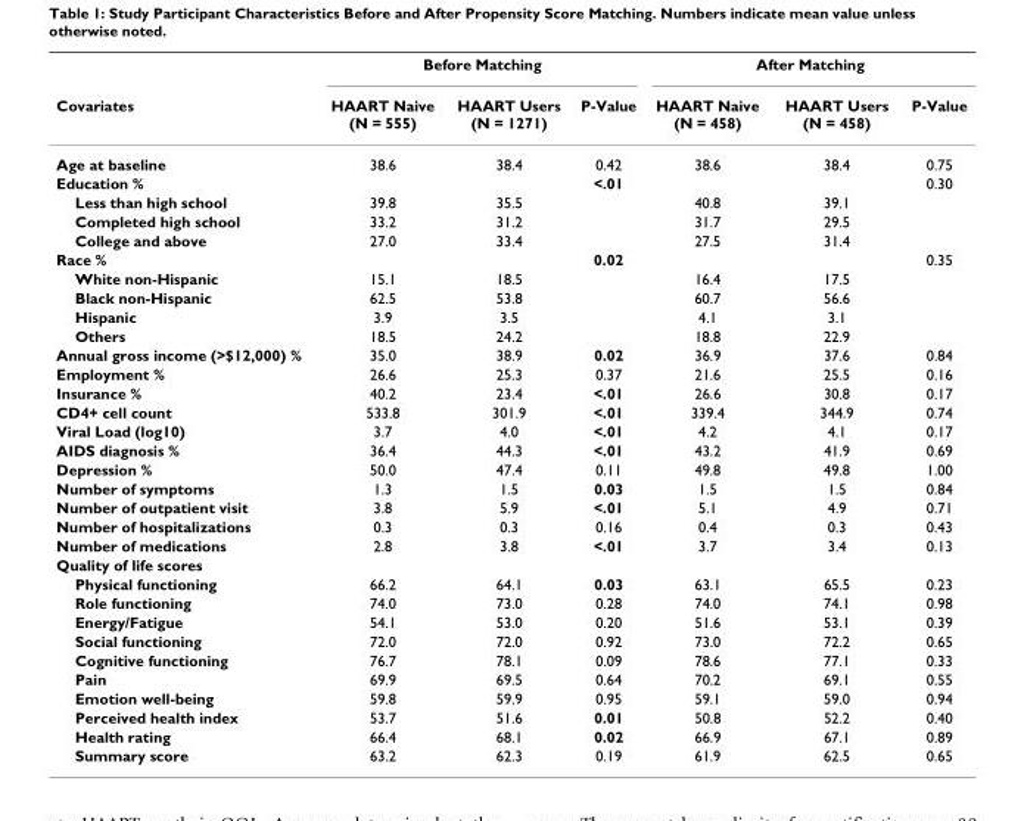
<table><thead><tr><td rowspan="2">Covariates</td><td colspan="3">Before Matching</td><td colspan="3">After Matching</td></tr><tr><td>HAART Naive (N = 555)</td><td>HAART Users (N = 1271)</td><td>P-Value</td><td>HAART Naive (N = 458)</td><td>HAART Users (N = 458)</td><td>P-Value</td></tr></thead><tbody><tr><td>Age at baseline</td><td>38.6</td><td>38.4</td><td>0.42</td><td>38.6</td><td>38.4</td><td>0.75</td></tr><tr><td>Education %</td><td></td><td></td><td>&lt;.01</td><td></td><td></td><td>0.30</td></tr><tr><td>Less than high school</td><td>39.8</td><td>35.5</td><td></td><td>40.8</td><td>39.1</td><td></td></tr><tr><td>Completed high school</td><td>33.2</td><td>31.2</td><td></td><td>31.7</td><td>29.5</td><td></td></tr><tr><td>College and above</td><td>27.0</td><td>33.4</td><td></td><td>27.5</td><td>31.4</td><td></td></tr><tr><td>Race %</td><td></td><td></td><td>0.02</td><td></td><td></td><td>0.35</td></tr><tr><td>White non-Hispanic</td><td>15.1</td><td>18.5</td><td></td><td>16.4</td><td>17.5</td><td></td></tr><tr><td>Black non-Hispanic</td><td>62.5</td><td>53.8</td><td></td><td>60.7</td><td>56.6</td><td></td></tr><tr><td>Hispanic</td><td>3.9</td><td>3.5</td><td></td><td>4.1</td><td>3.1</td><td></td></tr><tr><td>Others</td><td>18.5</td><td>24.2</td><td></td><td>18.8</td><td>22.9</td><td></td></tr><tr><td>Annual gross income (&gt;$12,000) %</td><td>35.0</td><td>38.9</td><td>0.02</td><td>36.9</td><td>37.6</td><td>0.84</td></tr><tr><td>Employment %</td><td>26.6</td><td>25.3</td><td>0.37</td><td>21.6</td><td>25.5</td><td>0.16</td></tr><tr><td>Insurance %</td><td>40.2</td><td>23.4</td><td>&lt;.01</td><td>26.6</td><td>30.8</td><td>0.17</td></tr><tr><td>CD4+ cell count</td><td>533.8</td><td>301.9</td><td>&lt;.01</td><td>339.4</td><td>344.9</td><td>0.74</td></tr><tr><td>Viral Load (log10)</td><td>3.7</td><td>4.0</td><td>&lt;.01</td><td>4.2</td><td>4.1</td><td>0.17</td></tr><tr><td>AIDS diagnosis %</td><td>36.4</td><td>44.3</td><td>&lt;.01</td><td>43.2</td><td>41.9</td><td>0.69</td></tr><tr><td>Depression %</td><td>50.0</td><td>47.4</td><td>0.11</td><td>49.8</td><td>49.8</td><td>1.00</td></tr><tr><td>Number of symptoms</td><td>1.3</td><td>1.5</td><td>0.03</td><td>1.5</td><td>1.5</td><td>0.84</td></tr><tr><td>Number of outpatient visit</td><td>3.8</td><td>5.9</td><td>&lt;.01</td><td>5.1</td><td>4.9</td><td>0.71</td></tr><tr><td>Number of hospitalizations</td><td>0.3</td><td>0.3</td><td>0.16</td><td>0.4</td><td>0.3</td><td>0.43</td></tr><tr><td>Number of medications</td><td>2.8</td><td>3.8</td><td>&lt;.01</td><td>3.7</td><td>3.4</td><td>0.13</td></tr><tr><td colspan="7">Quality of life scores</td></tr><tr><td>Physical functioning</td><td>66.2</td><td>64.1</td><td>0.03</td><td>63.1</td><td>65.5</td><td>0.23</td></tr><tr><td>Role functioning</td><td>74.0</td><td>73.0</td><td>0.28</td><td>74.0</td><td>74.1</td><td>0.98</td></tr><tr><td>Energy/Fatigue</td><td>54.1</td><td>53.0</td><td>0.20</td><td>51.6</td><td>53.1</td><td>0.39</td></tr><tr><td>Social functioning</td><td>72.0</td><td>72.0</td><td>0.92</td><td>73.0</td><td>72.2</td><td>0.65</td></tr><tr><td>Cognitive functioning</td><td>76.7</td><td>78.1</td><td>0.09</td><td>78.6</td><td>77.1</td><td>0.33</td></tr><tr><td>Pain</td><td>69.9</td><td>69.5</td><td>0.64</td><td>70.2</td><td>69.1</td><td>0.55</td></tr><tr><td>Emotion well-being</td><td>59.8</td><td>59.9</td><td>0.95</td><td>59.1</td><td>59.0</td><td>0.94</td></tr><tr><td>Perceived health index</td><td>53.7</td><td>51.6</td><td>0.01</td><td>50.8</td><td>52.2</td><td>0.40</td></tr><tr><td>Health rating</td><td>66.4</td><td>68.1</td><td>0.02</td><td>66.9</td><td>67.1</td><td>0.89</td></tr><tr><td>Summary score</td><td>63.2</td><td>62.3</td><td>0.19</td><td>61.9</td><td>62.5</td><td>0.65</td></tr></tbody></table>